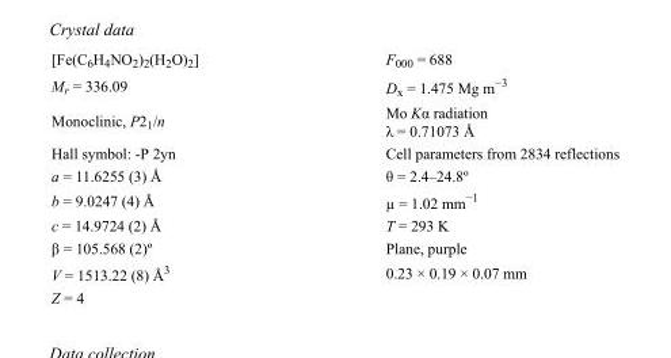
<table><tbody><tr><td>[Fe(C6H4NO2)2(H2O)2]</td><td>F000 = 688</td></tr><tr><td>Mr = 336.09</td><td>Dx = 1.475 Mg m−3</td></tr><tr><td>Monoclinic, P21/n</td><td>Mo Kα radiation λ = 0.71073 Å</td></tr><tr><td>Hall symbol: -P 2yn</td><td>Cell parameters from 2834 reflections</td></tr><tr><td>a = 11.6255 (3) Å</td><td>θ = 2.4–24.8º</td></tr><tr><td>b = 9.0247 (4) Å</td><td>µ = 1.02 mm−1</td></tr><tr><td>c = 14.9724 (2) Å</td><td>T = 293 K</td></tr><tr><td>β = 105.568 (2)º</td><td>Plane, purple</td></tr><tr><td>V = 1513.22 (8) Å3</td><td>0.23 × 0.19 × 0.07 mm</td></tr><tr><td>Z = 4</td><td></td></tr></tbody></table>